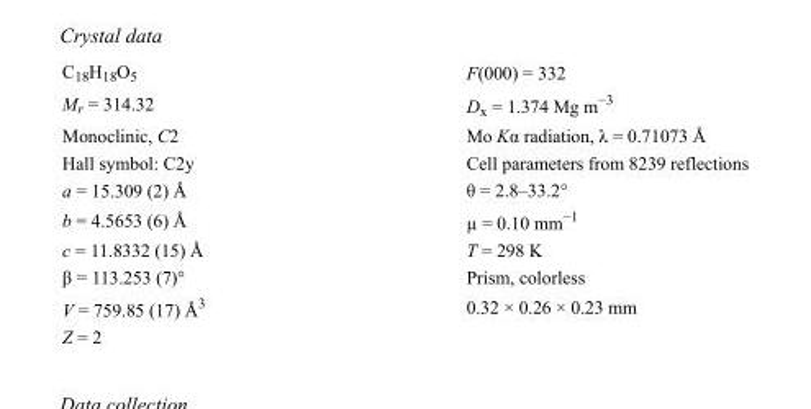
<table><tbody><tr><td>C<sub>18</sub>H<sub>18</sub>O<sub>5</sub></td><td>F(000) = 332</td></tr><tr><td>M<sub>r</sub> = 314.32</td><td>D<sub>x</sub> = 1.374 Mg m<sup>−3</sup></td></tr><tr><td>Monoclinic, C2</td><td>Mo Kα radiation, λ = 0.71073 Å</td></tr><tr><td>Hall symbol: C2y</td><td>Cell parameters from 8239 reflections</td></tr><tr><td>a = 15.309 (2) Å</td><td>θ = 2.8–33.2°</td></tr><tr><td>b = 4.5653 (6) Å</td><td>µ = 0.10 mm<sup>−1</sup></td></tr><tr><td>c = 11.8332 (15) Å</td><td>T = 298 K</td></tr><tr><td>β = 113.253 (7)°</td><td>Prism, colorless</td></tr><tr><td>V = 759.85 (17) Å<sup>3</sup></td><td>0.32 × 0.26 × 0.23 mm</td></tr><tr><td>Z = 2</td><td></td></tr></tbody></table>